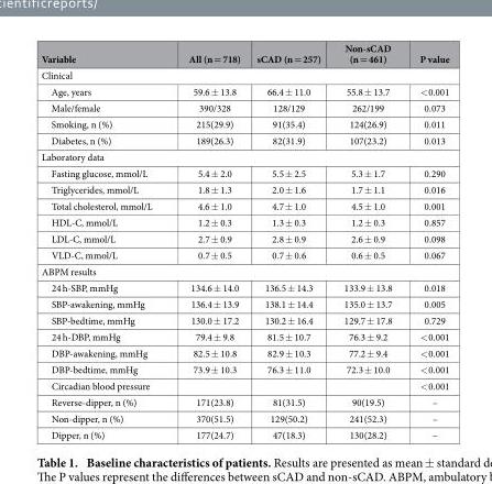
<table><thead><tr><td>Variable</td><td>All (n = 718)</td><td>sCAD (n = 257)</td><td>Non-sCAD (n = 461)</td><td>P value</td></tr></thead><tbody><tr><td colspan="5">Clinical</td></tr><tr><td>Age, years</td><td>59.6 ± 13.8</td><td>66.4 ± 11.0</td><td>55.8 ± 13.7</td><td>&lt; 0.001</td></tr><tr><td>Male/female</td><td>390/328</td><td>128/129</td><td>262/199</td><td>0.073</td></tr><tr><td>Smoking, n (%)</td><td>215(29.9)</td><td>91(35.4)</td><td>124(26.9)</td><td>0.011</td></tr><tr><td>Diabetes, n (%)</td><td>189(26.3)</td><td>82(31.9)</td><td>107(23.2)</td><td>0.013</td></tr><tr><td colspan="5">Laboratory data</td></tr><tr><td>Fasting glucose, mmol/L</td><td>5.4 ± 2.0</td><td>5.5 ± 2.5</td><td>5.3 ± 1.7</td><td>0.290</td></tr><tr><td>Triglycerides, mmol/L</td><td>1.8 ± 1.3</td><td>2.0 ± 1.6</td><td>1.7 ± 1.1</td><td>0.016</td></tr><tr><td>Total cholesterol, mmol/L</td><td>4.6 ± 1.0</td><td>4.7 ± 1.0</td><td>4.5 ± 1.0</td><td>0.001</td></tr><tr><td>HDL-C, mmol/L</td><td>1.2 ± 0.3</td><td>1.3 ± 0.3</td><td>1.2 ± 0.3</td><td>0.857</td></tr><tr><td>LDL-C, mmol/L</td><td>2.7 ± 0.9</td><td>2.8 ± 0.9</td><td>2.6 ± 0.9</td><td>0.098</td></tr><tr><td>VLD-C, mmol/L</td><td>0.7 ± 0.5</td><td>0.7 ± 0.6</td><td>0.6 ± 0.5</td><td>0.067</td></tr><tr><td colspan="5">ABPM results</td></tr><tr><td>24 h-SBP, mmHg</td><td>134.6 ± 14.0</td><td>136.5 ± 14.3</td><td>133.9 ± 13.8</td><td>0.018</td></tr><tr><td>SBP-awakening, mmHg</td><td>136.4 ± 13.9</td><td>138.1 ± 14.4</td><td>135.0 ± 13.7</td><td>0.005</td></tr><tr><td>SBP-bedtime, mmHg</td><td>130.0 ± 17.2</td><td>130.2 ± 16.4</td><td>129.7 ± 17.8</td><td>0.729</td></tr><tr><td>24 h-DBP, mmHg</td><td>79.4 ± 9.8</td><td>81.5 ± 10.7</td><td>76.3 ± 9.2</td><td>&lt; 0.001</td></tr><tr><td>DBP-awakening, mmHg</td><td>82.5 ± 10.8</td><td>82.9 ± 10.3</td><td>77.2 ± 9.4</td><td>&lt; 0.001</td></tr><tr><td>DBP-bedtime, mmHg</td><td>73.9 ± 10.3</td><td>76.3 ± 11.0</td><td>72.3 ± 10.0</td><td>&lt; 0.001</td></tr><tr><td>Circadian blood pressure</td><td></td><td></td><td></td><td>&lt; 0.001</td></tr><tr><td>Reverse-dipper, n (%)</td><td>171(23.8)</td><td>81(31.5)</td><td>90(19.5)</td><td>–</td></tr><tr><td>Non-dipper, n (%)</td><td>370(51.5)</td><td>129(50.2)</td><td>241(52.3)</td><td>–</td></tr><tr><td>Dipper, n (%)</td><td>177(24.7)</td><td>47(18.3)</td><td>130(28.2)</td><td>–</td></tr></tbody></table>